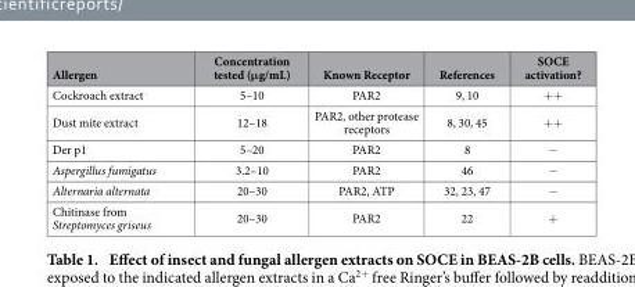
<table><thead><tr><td>Allergen</td><td>Concentration tested (μg/mL)</td><td>Known Receptor</td><td>References</td><td>SOCE activation?</td></tr></thead><tbody><tr><td>Cockroach extract</td><td>5–10</td><td>PAR2</td><td>9, 10</td><td>+ +</td></tr><tr><td>Dust mite extract</td><td>12–18</td><td>PAR2, other protease receptors</td><td>8, 30, 45</td><td>+ +</td></tr><tr><td>Der p1</td><td>5–20</td><td>PAR2</td><td>8</td><td>−</td></tr><tr><td>Aspergillus fumigatus</td><td>3.2–10</td><td>PAR2</td><td>46</td><td>−</td></tr><tr><td>Alternaria alternata</td><td>20–30</td><td>PAR2, ATP</td><td>32, 23, 47</td><td>−</td></tr><tr><td>Chitinase from Streptomyces griseus</td><td>20–30</td><td>PAR2</td><td>22</td><td>+</td></tr></tbody></table>